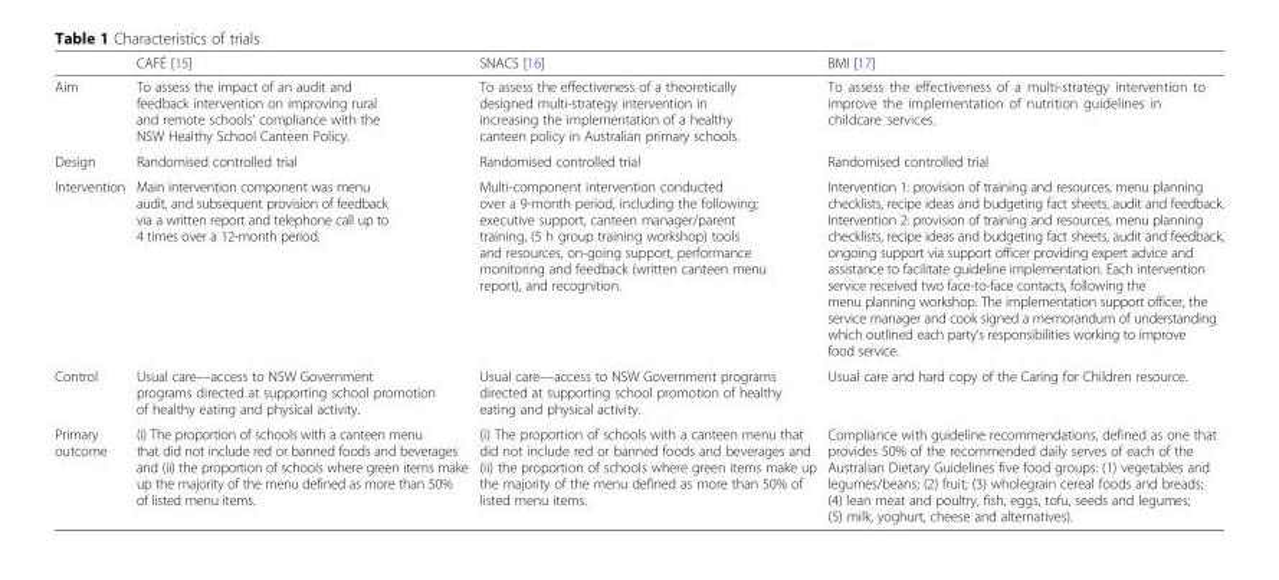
<table><thead><tr><td></td><td>CAFÉ [15]</td><td>SNACS [16]</td><td>BMI [17]</td></tr></thead><tbody><tr><td>Aim</td><td>To assess the impact of an audit and feedback intervention on improving rural and remote schools’ compliance with the NSW Healthy School Canteen Policy.</td><td>To assess the effectiveness of a theoretically designed multi-strategy intervention in increasing the implementation of a healthy canteen policy in Australian primary schools.</td><td>To assess the effectiveness of a multi-strategy intervention to improve the implementation of nutrition guidelines in childcare services.</td></tr><tr><td>Design</td><td>Randomised controlled trial</td><td>Randomised controlled trial</td><td>Randomised controlled trial</td></tr><tr><td>Intervention</td><td>Main intervention component was menu audit, and subsequent provision of feedback via a written report and telephone call up to 4 times over a 12-month period.</td><td>Multi-component intervention conducted over a 9-month period, including the following; executive support, canteen manager/parent training, (5 h group training workshop) tools and resources, on-going support, performance monitoring and feedback (written canteen menu report), and recognition.</td><td>Intervention 1: provision of training and resources, menu planning checklists, recipe ideas and budgeting fact sheets, audit and feedback. Intervention 2: provision of training and resources, menu planning checklists, recipe ideas and budgeting fact sheets, audit and feedback, ongoing support via support officer providing expert advice and assistance to facilitate guideline implementation. Each intervention service received two face-to-face contacts, following the menu planning workshop. The implementation support officer, the service manager and cook signed a memorandum of understanding which outlined each party’s responsibilities working to improve food service.</td></tr><tr><td>Control</td><td>Usual care––access to NSW Government programs directed at supporting school promotion of healthy eating and physical activity.</td><td>Usual care––access to NSW Government programs directed at supporting school promotion of healthy eating and physical activity.</td><td>Usual care and hard copy of the Caring for Children resource.</td></tr><tr><td>Primary outcome</td><td>(i) The proportion of schools with a canteen menu that did not include red or banned foods and beverages and (ii) the proportion of schools where green items make up the majority of the menu defined as more than 50% of listed menu items.</td><td>(i) The proportion of schools with a canteen menu that did not include red or banned foods and beverages and (ii) the proportion of schools where green items make up the majority of the menu defined as more than 50% of listed menu items.</td><td>Compliance with guideline recommendations, defined as one that provides 50% of the recommended daily serves of each of the Australian Dietary Guidelines five food groups: (1) vegetables and legumes/beans; (2) fruit; (3) wholegrain cereal foods and breads; (4) lean meat and poultry, fish, eggs, tofu, seeds and legumes; (5) milk, yoghurt, cheese and alternatives).</td></tr></tbody></table>